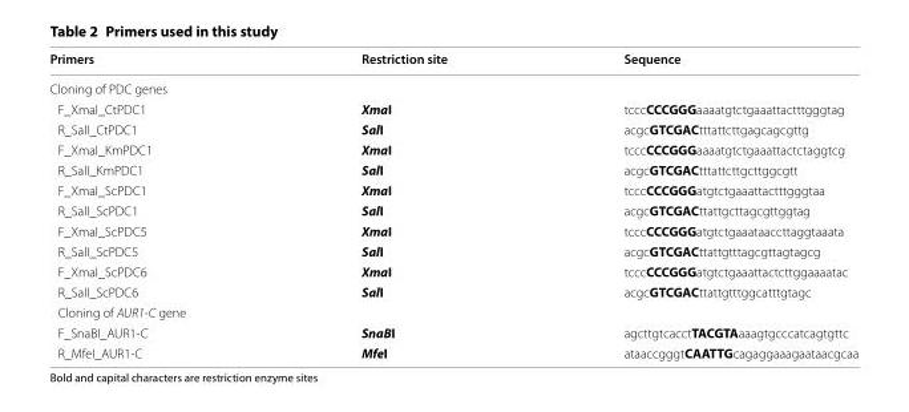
<table><thead><tr><td>Primers</td><td>Restriction site</td><td>Sequence</td></tr></thead><tbody><tr><td colspan="3">Cloning of PDC genes</td></tr><tr><td>F_XmaI_CtPDC1</td><td>XmaI</td><td>tcccCCCGGGaaaatgtctgaaattactttgggtag</td></tr><tr><td>R_SalI_CtPDC1</td><td>SalI</td><td>acgcGTCGACtttattcttgagcagcgttg</td></tr><tr><td>F_XmaI_KmPDC1</td><td>XmaI</td><td>tcccCCCGGGaaaatgtctgaaattactctaggtcg</td></tr><tr><td>R_SalI_KmPDC1</td><td>SalI</td><td>acgcGTCGACtttattcttgcttggcgtt</td></tr><tr><td>F_XmaI_ScPDC1</td><td>XmaI</td><td>tcccCCCGGGatgtctgaaattactttgggtaa</td></tr><tr><td>R_SalI_ScPDC1</td><td>SalI</td><td>acgcGTCGACttattgcttagcgttggtag</td></tr><tr><td>F_XmaI_ScPDC5</td><td>XmaI</td><td>tcccCCCGGGatgtctgaaataaccttaggtaaata</td></tr><tr><td>R_SalI_ScPDC5</td><td>SalI</td><td>acgcGTCGACttattgtttagcgttagtagcg</td></tr><tr><td>F_XmaI_ScPDC6</td><td>XmaI</td><td>tcccCCCGGGatgtctgaaattactcttggaaaatac</td></tr><tr><td>R_SalI_ScPDC6</td><td>SalI</td><td>acgcGTCGACttattgtttggcatttgtagc</td></tr><tr><td colspan="3">Cloning of AUR1‑C gene</td></tr><tr><td>F_SnaBI_AUR1‑C</td><td>SnaBI</td><td>agcttgtcacctTACGTAaaagtgcccatcagtgttc</td></tr><tr><td>R_MfeI_AUR1‑C</td><td>MfeI</td><td>ataaccgggtCAATTGcagaggaaagaataacgcaa</td></tr></tbody></table>